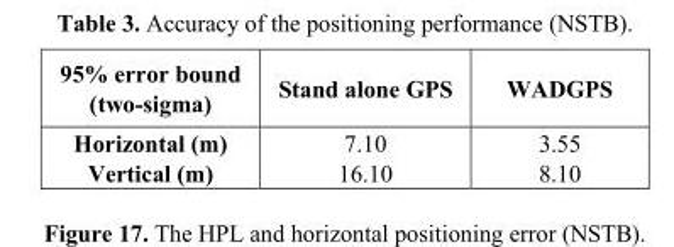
<table><thead><tr><td>95% error bound (two-sigma)</td><td>Stand alone GPS</td><td>WADGPS</td></tr></thead><tbody><tr><td>Horizontal (m)</td><td>7.10</td><td>3.55</td></tr><tr><td>Vertical (m)</td><td>16.10</td><td>8.10</td></tr></tbody></table>